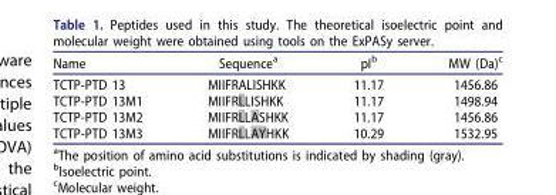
<table><thead><tr><td>Name</td><td>Sequence<sup>a</sup></td><td>pI<sup>b</sup></td><td>MW (Da)<sup>c</sup></td></tr></thead><tbody><tr><td>TCTP-PTD 13</td><td>MIIFRALISHKK</td><td>11.17</td><td>1456.86</td></tr><tr><td>TCTP-PTD 13M1</td><td>MIIFRLLISHKK</td><td>11.17</td><td>1498.94</td></tr><tr><td>TCTP-PTD 13M2</td><td>MIIFRLLASHKK</td><td>11.17</td><td>1456.86</td></tr><tr><td>TCTP-PTD 13M3</td><td>MIIFRLLAYHKK</td><td>10.29</td><td>1532.95</td></tr></tbody></table>